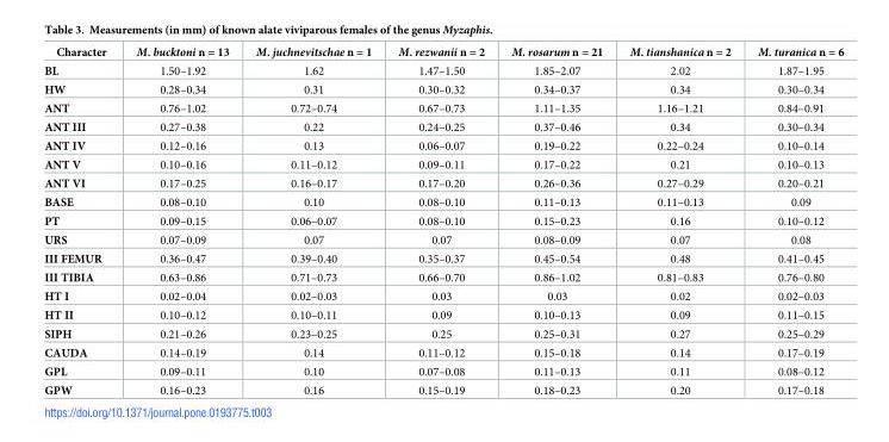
<table><thead><tr><td>Character</td><td>M. bucktoni n = 13</td><td>M. juchnevitschae n = 1</td><td>M. rezwanii n = 2</td><td>M. rosarum n = 21</td><td>M. tianshanica n = 2</td><td>M. turanica n = 6</td></tr></thead><tbody><tr><td>BL</td><td>1.50–1.92</td><td>1.62</td><td>1.47–1.50</td><td>1.85–2.07</td><td>2.02</td><td>1.87–1.95</td></tr><tr><td>HW</td><td>0.28–0.34</td><td>0.31</td><td>0.30–0.32</td><td>0.34–0.37</td><td>0.34</td><td>0.30–0.34</td></tr><tr><td>ANT</td><td>0.76–1.02</td><td>0.72–0.74</td><td>0.67–0.73</td><td>1.11–1.35</td><td>1.16–1.21</td><td>0.84–0.91</td></tr><tr><td>ANT III</td><td>0.27–0.38</td><td>0.22</td><td>0.24–0.25</td><td>0.37–0.46</td><td>0.34</td><td>0.30–0.34</td></tr><tr><td>ANT IV</td><td>0.12–0.16</td><td>0.13</td><td>0.06–0.07</td><td>0.19–0.22</td><td>0.22–0.24</td><td>0.10–0.14</td></tr><tr><td>ANT V</td><td>0.10–0.16</td><td>0.11–0.12</td><td>0.09–0.11</td><td>0.17–0.22</td><td>0.21</td><td>0.10–0.13</td></tr><tr><td>ANT VI</td><td>0.17–0.25</td><td>0.16–0.17</td><td>0.17–0.20</td><td>0.26–0.36</td><td>0.27–0.29</td><td>0.20–0.21</td></tr><tr><td>BASE</td><td>0.08–0.10</td><td>0.10</td><td>0.08–0.10</td><td>0.11–0.13</td><td>0.11–0.13</td><td>0.09</td></tr><tr><td>PT</td><td>0.09–0.15</td><td>0.06–0.07</td><td>0.08–0.10</td><td>0.15–0.23</td><td>0.16</td><td>0.10–0.12</td></tr><tr><td>URS</td><td>0.07–0.09</td><td>0.07</td><td>0.07</td><td>0.08–0.09</td><td>0.07</td><td>0.08</td></tr><tr><td>III FEMUR</td><td>0.36–0.47</td><td>0.39–0.40</td><td>0.35–0.37</td><td>0.45–0.54</td><td>0.48</td><td>0.41–0.45</td></tr><tr><td>III TIBIA</td><td>0.63–0.86</td><td>0.71–0.73</td><td>0.66–0.70</td><td>0.86–1.02</td><td>0.81–0.83</td><td>0.76–0.80</td></tr><tr><td>HT I</td><td>0.02–0.04</td><td>0.02–0.03</td><td>0.03</td><td>0.03</td><td>0.02</td><td>0.02–0.03</td></tr><tr><td>HT II</td><td>0.10–0.12</td><td>0.10–0.11</td><td>0.09</td><td>0.10–0.13</td><td>0.09</td><td>0.11–0.15</td></tr><tr><td>SIPH</td><td>0.21–0.26</td><td>0.23–0.25</td><td>0.25</td><td>0.25–0.31</td><td>0.27</td><td>0.25–0.29</td></tr><tr><td>CAUDA</td><td>0.14–0.19</td><td>0.14</td><td>0.11–0.12</td><td>0.15–0.18</td><td>0.14</td><td>0.17–0.19</td></tr><tr><td>GPL</td><td>0.09–0.11</td><td>0.10</td><td>0.07–0.08</td><td>0.11–0.13</td><td>0.11</td><td>0.08–0.12</td></tr><tr><td>GPW</td><td>0.16–0.23</td><td>0.16</td><td>0.15–0.19</td><td>0.18–0.23</td><td>0.20</td><td>0.17–0.18</td></tr></tbody></table>